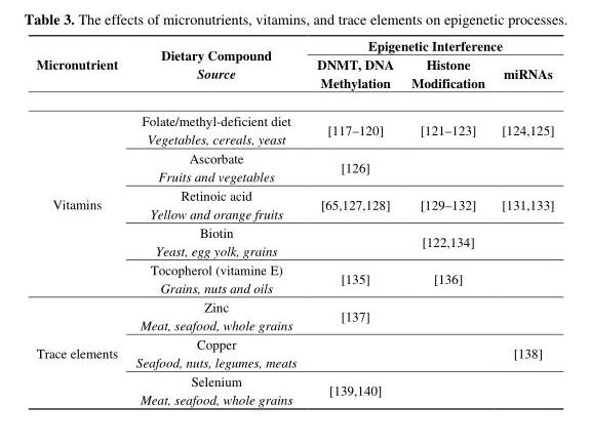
<table><thead><tr><td rowspan="2">Micronutrient</td><td rowspan="2">Dietary Compound Source</td><td colspan="3">Epigenetic Interference</td></tr><tr><td>DNMT, DNA Methylation</td><td>Histone Modification</td><td>miRNAs</td></tr></thead><tbody><tr><td rowspan="5">Vitamins</td><td>Folate/methyl-deficient diet Vegetables, cereals, yeast</td><td>[117–120]</td><td>[121–123]</td><td>[124,125]</td></tr><tr><td>Ascorbate Fruits and vegetables</td><td>[126]</td><td></td><td></td></tr><tr><td>Retinoic acid Yellow and orange fruits</td><td>[65,127,128]</td><td>[129–132]</td><td>[131,133]</td></tr><tr><td>Biotin Yeast, egg yolk, grains</td><td></td><td>[122,134]</td><td></td></tr><tr><td>Tocopherol (vitamine E) Grains, nuts and oils</td><td>[135]</td><td>[136]</td><td></td></tr><tr><td rowspan="3">Trace elements</td><td>Zinc Meat, seafood, whole grains</td><td>[137]</td><td></td><td></td></tr><tr><td>Copper Seafood, nuts, legumes, meats</td><td></td><td></td><td>[138]</td></tr><tr><td>Selenium Meat, seafood, whole grains</td><td>[139,140]</td><td></td><td></td></tr></tbody></table>